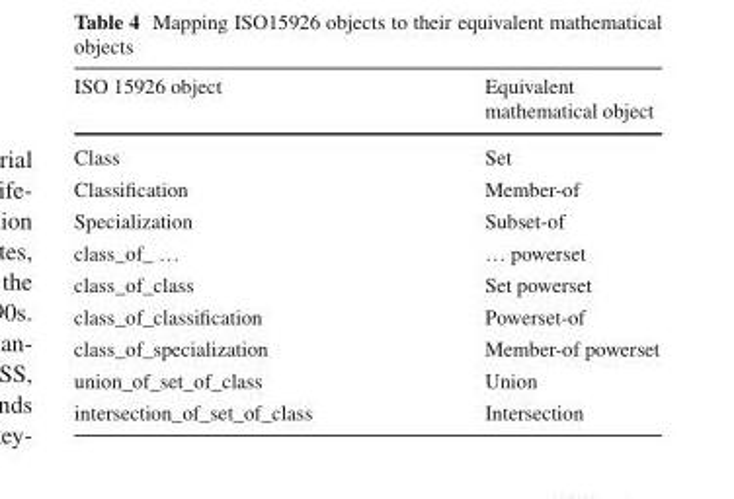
<table><thead><tr><td>ISO 15926 object</td><td>Equivalent mathematical object</td></tr></thead><tbody><tr><td>Class</td><td>Set</td></tr><tr><td>Classification</td><td>Member-of</td></tr><tr><td>Specialization</td><td>Subset-of</td></tr><tr><td>class_of_ …</td><td>… powerset</td></tr><tr><td>class_of_class</td><td>Set powerset</td></tr><tr><td>class_of_classification</td><td>Powerset-of</td></tr><tr><td>class_of_specialization</td><td>Member-of powerset</td></tr><tr><td>union_of_set_of_class</td><td>Union</td></tr><tr><td>intersection_of_set_of_class</td><td>Intersection</td></tr></tbody></table>